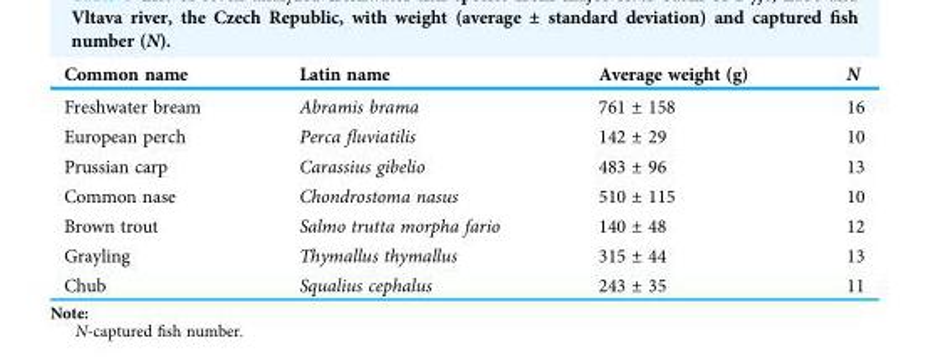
<table><thead><tr><td>Common name</td><td>Latin name</td><td>Average weight (g)</td><td>N</td></tr></thead><tbody><tr><td>Freshwater bream</td><td>Abramis brama</td><td>761 ± 158</td><td>16</td></tr><tr><td>European perch</td><td>Perca fluviatilis</td><td>142 ± 29</td><td>10</td></tr><tr><td>Prussian carp</td><td>Carassius gibelio</td><td>483 ± 96</td><td>13</td></tr><tr><td>Common nase</td><td>Chondrostoma nasus</td><td>510 ± 115</td><td>10</td></tr><tr><td>Brown trout</td><td>Salmo trutta morpha fario</td><td>140 ± 48</td><td>12</td></tr><tr><td>Grayling</td><td>Thymallus thymallus</td><td>315 ± 44</td><td>13</td></tr><tr><td>Chub</td><td>Squalius cephalus</td><td>243 ± 35</td><td>11</td></tr></tbody></table>